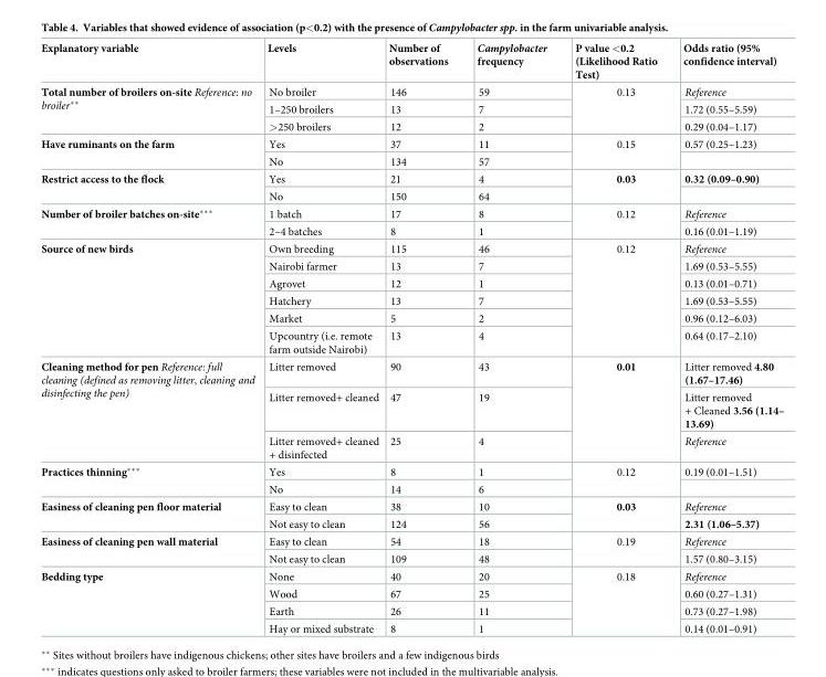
<table><thead><tr><td>Explanatory variable</td><td>Levels</td><td>Number of observations</td><td>Campylobacter frequency</td><td>P value &lt;0.2 (Likelihood Ratio Test)</td><td>Odds ratio (95% confidence interval)</td></tr></thead><tbody><tr><td rowspan="3">Total number of broilers on-site Reference: no broiler**</td><td>No broiler</td><td>146</td><td>59</td><td rowspan="3">0.13</td><td>Reference</td></tr><tr><td>1–250 broilers</td><td>13</td><td>7</td><td>1.72 (0.55–5.59)</td></tr><tr><td>&gt;250 broilers</td><td>12</td><td>2</td><td>0.29 (0.04–1.17)</td></tr><tr><td rowspan="2">Have ruminants on the farm</td><td>Yes</td><td>37</td><td>11</td><td rowspan="2">0.15</td><td>0.57 (0.25–1.23)</td></tr><tr><td>No</td><td>134</td><td>57</td><td></td></tr><tr><td rowspan="2">Restrict access to the flock</td><td>Yes</td><td>21</td><td>4</td><td rowspan="2">0.03</td><td>0.32 (0.09–0.90)</td></tr><tr><td>No</td><td>150</td><td>64</td><td></td></tr><tr><td rowspan="2">Number of broiler batches on-site***</td><td>1 batch</td><td>17</td><td>8</td><td rowspan="2">0.12</td><td>Reference</td></tr><tr><td>2–4 batches</td><td>8</td><td>1</td><td>0.16 (0.01–1.19)</td></tr><tr><td rowspan="6">Source of new birds</td><td>Own breeding</td><td>115</td><td>46</td><td rowspan="6">0.12</td><td>Reference</td></tr><tr><td>Nairobi farmer</td><td>13</td><td>7</td><td>1.69 (0.53–5.55)</td></tr><tr><td>Agrovet</td><td>12</td><td>1</td><td>0.13 (0.01–0.71)</td></tr><tr><td>Hatchery</td><td>13</td><td>7</td><td>1.69 (0.53–5.55)</td></tr><tr><td>Market</td><td>5</td><td>2</td><td>0.96 (0.12–6.03)</td></tr><tr><td>Upcountry (i.e. remote farm outside Nairobi)</td><td>13</td><td>4</td><td>0.64 (0.17–2.10)</td></tr><tr><td rowspan="3">Cleaning method for pen Reference: full cleaning (defined as removing litter, cleaning and disinfecting the pen)</td><td>Litter removed</td><td>90</td><td>43</td><td rowspan="3">0.01</td><td>Litter removed 4.80 (1.67–17.46)</td></tr><tr><td>Litter removed+ cleaned</td><td>47</td><td>19</td><td>Litter removed + Cleaned 3.56 (1.14– 13.69)</td></tr><tr><td>Litter removed+ cleaned + disinfected</td><td>25</td><td>4</td><td>Reference</td></tr><tr><td rowspan="2">Practices thinning***</td><td>Yes</td><td>8</td><td>1</td><td rowspan="2">0.12</td><td>0.19 (0.01–1.51)</td></tr><tr><td>No</td><td>14</td><td>6</td><td></td></tr><tr><td rowspan="2">Easiness of cleaning pen floor material</td><td>Easy to clean</td><td>38</td><td>10</td><td rowspan="2">0.03</td><td>Reference</td></tr><tr><td>Not easy to clean</td><td>124</td><td>56</td><td>2.31 (1.06–5.37)</td></tr><tr><td rowspan="2">Easiness of cleaning pen wall material</td><td>Easy to clean</td><td>54</td><td>18</td><td rowspan="2">0.19</td><td>Reference</td></tr><tr><td>Not easy to clean</td><td>109</td><td>48</td><td>1.57 (0.80–3.15)</td></tr><tr><td rowspan="4">Bedding type</td><td>None</td><td>40</td><td>20</td><td rowspan="4">0.18</td><td>Reference</td></tr><tr><td>Wood</td><td>67</td><td>25</td><td>0.60 (0.27–1.31)</td></tr><tr><td>Earth</td><td>26</td><td>11</td><td>0.73 (0.27–1.98)</td></tr><tr><td>Hay or mixed substrate</td><td>8</td><td>1</td><td>0.14 (0.01–0.91)</td></tr></tbody></table>